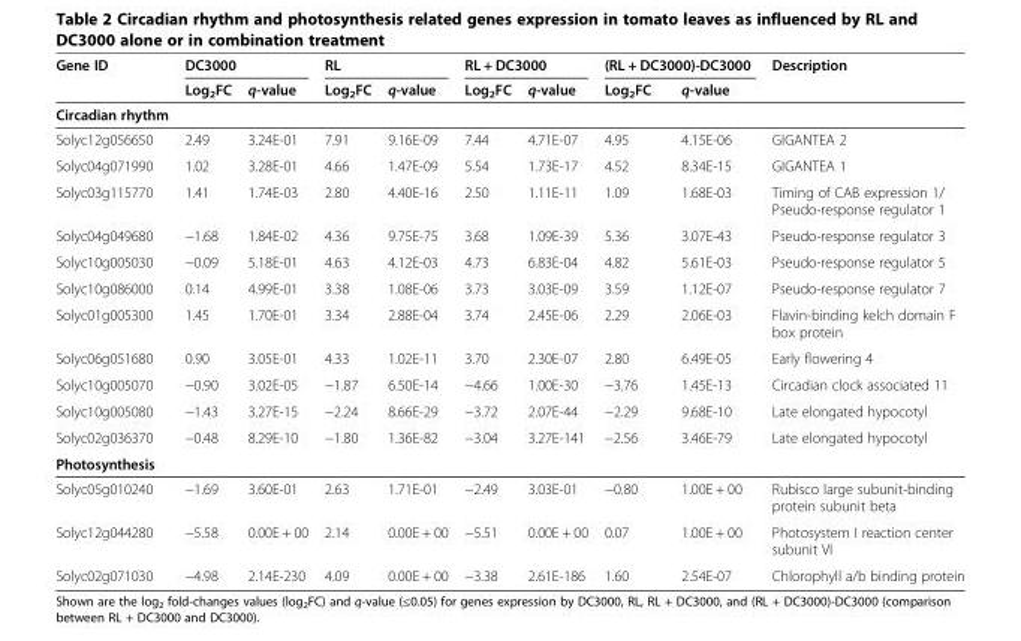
<table><thead><tr><td rowspan="2">Gene ID</td><td colspan="2">DC3000</td><td colspan="2">RL</td><td colspan="2">RL + DC3000</td><td colspan="2">(RL + DC3000)-DC3000</td><td rowspan="2">Description</td></tr><tr><td>Log<sub>2</sub>FC</td><td>q-value</td><td>Log<sub>2</sub>FC</td><td>q-value</td><td>Log<sub>2</sub>FC</td><td>q-value</td><td>Log<sub>2</sub>FC</td><td>q-value</td></tr></thead><tbody><tr><td colspan="10">Circadian rhythm</td></tr><tr><td>Solyc12g056650</td><td>2.49</td><td>3.24E-01</td><td>7.91</td><td>9.16E-09</td><td>7.44</td><td>4.71E-07</td><td>4.95</td><td>4.15E-06</td><td>GIGANTEA 2</td></tr><tr><td>Solyc04g071990</td><td>1.02</td><td>3.28E-01</td><td>4.66</td><td>1.47E-09</td><td>5.54</td><td>1.73E-17</td><td>4.52</td><td>8.34E-15</td><td>GIGANTEA 1</td></tr><tr><td>Solyc03g115770</td><td>1.41</td><td>1.74E-03</td><td>2.80</td><td>4.40E-16</td><td>2.50</td><td>1.11E-11</td><td>1.09</td><td>1.68E-03</td><td>Timing of CAB expression 1/ Pseudo-response regulator 1</td></tr><tr><td>Solyc04g049680</td><td>−1.68</td><td>1.84E-02</td><td>4.36</td><td>9.75E-75</td><td>3.68</td><td>1.09E-39</td><td>5.36</td><td>3.07E-43</td><td>Pseudo-response regulator 3</td></tr><tr><td>Solyc10g005030</td><td>−0.09</td><td>5.18E-01</td><td>4.63</td><td>4.12E-03</td><td>4.73</td><td>6.83E-04</td><td>4.82</td><td>5.61E-03</td><td>Pseudo-response regulator 5</td></tr><tr><td>Solyc10g086000</td><td>0.14</td><td>4.99E-01</td><td>3.38</td><td>1.08E-06</td><td>3.73</td><td>3.03E-09</td><td>3.59</td><td>1.12E-07</td><td>Pseudo-response regulator 7</td></tr><tr><td>Solyc01g005300</td><td>1.45</td><td>1.70E-01</td><td>3.34</td><td>2.88E-04</td><td>3.74</td><td>2.45E-06</td><td>2.29</td><td>2.06E-03</td><td>Flavin-binding kelch domain F box protein</td></tr><tr><td>Solyc06g051680</td><td>0.90</td><td>3.05E-01</td><td>4.33</td><td>1.02E-11</td><td>3.70</td><td>2.30E-07</td><td>2.80</td><td>6.49E-05</td><td>Early flowering 4</td></tr><tr><td>Solyc10g005070</td><td>−0.90</td><td>3.02E-05</td><td>−1.87</td><td>6.50E-14</td><td>−4.66</td><td>1.00E-30</td><td>−3.76</td><td>1.45E-13</td><td>Circadian clock associated 11</td></tr><tr><td>Solyc10g005080</td><td>−1.43</td><td>3.27E-15</td><td>−2.24</td><td>8.66E-29</td><td>−3.72</td><td>2.07E-44</td><td>−2.29</td><td>9.68E-10</td><td>Late elongated hypocotyl</td></tr><tr><td>Solyc02g036370</td><td>−0.48</td><td>8.29E-10</td><td>−1.80</td><td>1.36E-82</td><td>−3.04</td><td>3.27E-141</td><td>−2.56</td><td>3.46E-79</td><td>Late elongated hypocotyl</td></tr><tr><td colspan="10">Photosynthesis</td></tr><tr><td>Solyc05g010240</td><td>−1.69</td><td>3.60E-01</td><td>2.63</td><td>1.71E-01</td><td>−2.49</td><td>3.03E-01</td><td>−0.80</td><td>1.00E + 00</td><td>Rubisco large subunit-binding protein subunit beta</td></tr><tr><td>Solyc12g044280</td><td>−5.58</td><td>0.00E + 00</td><td>2.14</td><td>0.00E + 00</td><td>−5.51</td><td>0.00E + 00</td><td>0.07</td><td>1.00E + 00</td><td>Photosystem I reaction center subunit VI</td></tr><tr><td>Solyc02g071030</td><td>−4.98</td><td>2.14E-230</td><td>4.09</td><td>0.00E + 00</td><td>−3.38</td><td>2.61E-186</td><td>1.60</td><td>2.54E-07</td><td>Chlorophyll a/b binding protein</td></tr></tbody></table>